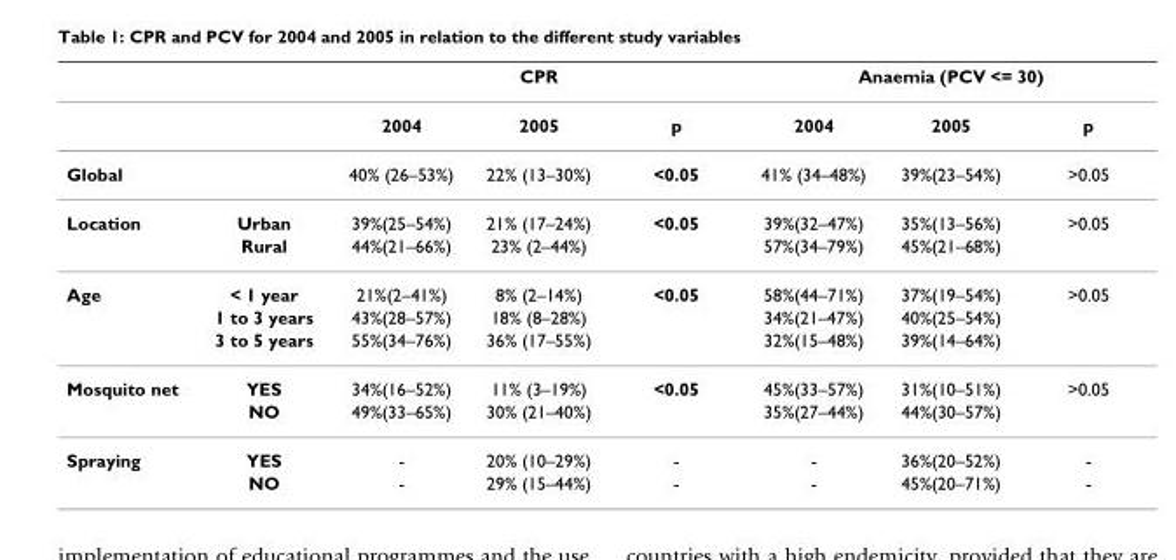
<table><thead><tr><td rowspan="2"></td><td rowspan="2"></td><td colspan="3">CPR</td><td colspan="3">Anaemia (PCV &lt;= 30)</td></tr><tr><td>2004</td><td>2005</td><td>p</td><td>2004</td><td>2005</td><td>p</td></tr></thead><tbody><tr><td>Global</td><td></td><td>40% (26–53%)</td><td>22% (13–30%)</td><td>&lt;0.05</td><td>41% (34–48%)</td><td>39%(23–54%)</td><td>&gt;0.05</td></tr><tr><td rowspan="2">Location</td><td>Urban</td><td>39%(25–54%)</td><td>21% (17–24%)</td><td>&lt;0.05</td><td>39%(32–47%)</td><td>35%(13–56%)</td><td>&gt;0.05</td></tr><tr><td>Rural</td><td>44%(21–66%)</td><td>23% (2–44%)</td><td></td><td>57%(34–79%)</td><td>45%(21–68%)</td><td></td></tr><tr><td rowspan="3">Age</td><td>&lt; 1 year</td><td>21%(2–41%)</td><td>8% (2–14%)</td><td>&lt;0.05</td><td>58%(44–71%)</td><td>37%(19–54%)</td><td>&gt;0.05</td></tr><tr><td>1 to 3 years</td><td>43%(28–57%)</td><td>18% (8–28%)</td><td></td><td>34%(21–47%)</td><td>40%(25–54%)</td><td></td></tr><tr><td>3 to 5 years</td><td>55%(34–76%)</td><td>36% (17–55%)</td><td></td><td>32%(15–48%)</td><td>39%(14–64%)</td><td></td></tr><tr><td rowspan="2">Mosquito net</td><td>YES</td><td>34%(16–52%)</td><td>11% (3–19%)</td><td>&lt;0.05</td><td>45%(33–57%)</td><td>31%(10–51%)</td><td>&gt;0.05</td></tr><tr><td>NO</td><td>49%(33–65%)</td><td>30% (21–40%)</td><td></td><td>35%(27–44%)</td><td>44%(30–57%)</td><td></td></tr><tr><td rowspan="2">Spraying</td><td>YES</td><td>-</td><td>20% (10–29%)</td><td>-</td><td>-</td><td>36%(20–52%)</td><td>-</td></tr><tr><td>NO</td><td>-</td><td>29% (15–44%)</td><td>-</td><td>-</td><td>45%(20–71%)</td><td>-</td></tr></tbody></table>